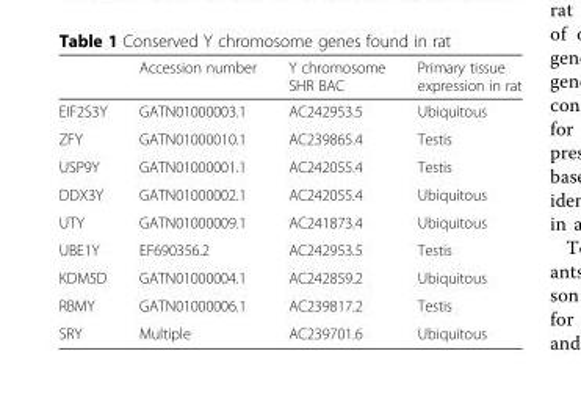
<table><thead><tr><td></td><td>Accession number</td><td>Y chromosome SHR BAC</td><td>Primary tissue expression in rat</td></tr></thead><tbody><tr><td>EIF2S3Y</td><td>GATN01000003.1</td><td>AC242953.5</td><td>Ubiquitous</td></tr><tr><td>ZFY</td><td>GATN01000010.1</td><td>AC239865.4</td><td>Testis</td></tr><tr><td>USP9Y</td><td>GATN01000001.1</td><td>AC242055.4</td><td>Testis</td></tr><tr><td>DDX3Y</td><td>GATN01000002.1</td><td>AC242055.4</td><td>Ubiquitous</td></tr><tr><td>UTY</td><td>GATN01000009.1</td><td>AC241873.4</td><td>Ubiquitous</td></tr><tr><td>UBE1Y</td><td>EF690356.2</td><td>AC242953.5</td><td>Testis</td></tr><tr><td>KDM5D</td><td>GATN01000004.1</td><td>AC242859.2</td><td>Ubiquitous</td></tr><tr><td>RBMY</td><td>GATN01000006.1</td><td>AC239817.2</td><td>Testis</td></tr><tr><td>SRY</td><td>Multiple</td><td>AC239701.6</td><td>Ubiquitous</td></tr></tbody></table>